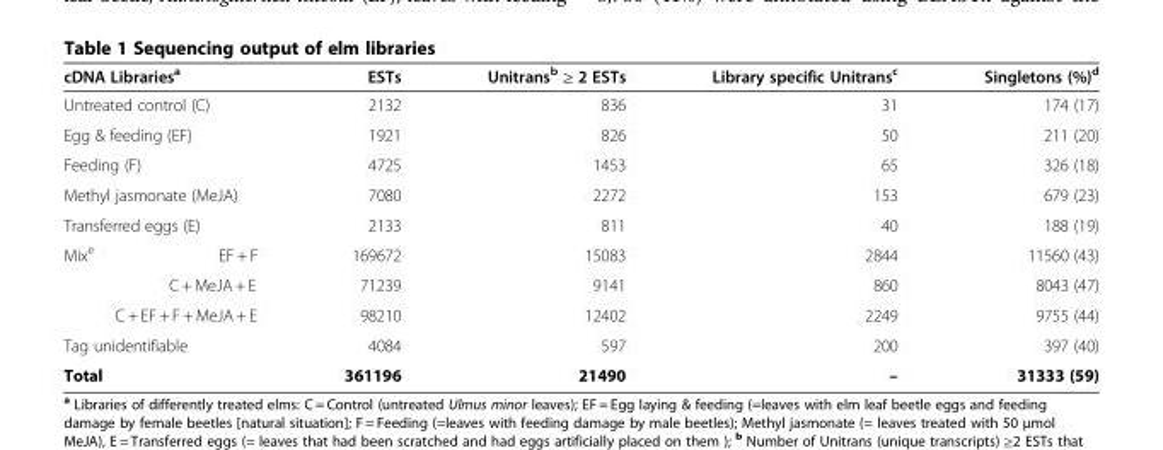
<table><thead><tr><td>cDNA Libraries<sup>a</sup></td><td>ESTs</td><td>Unitrans<sup>b</sup> ≥ 2 ESTs</td><td>Library specific Unitrans<sup>c</sup></td><td>Singletons (%)<sup>d</sup></td></tr></thead><tbody><tr><td>Untreated control (C)</td><td>2132</td><td>836</td><td>31</td><td>174 (17)</td></tr><tr><td>Egg &amp; feeding (EF)</td><td>1921</td><td>826</td><td>50</td><td>211 (20)</td></tr><tr><td>Feeding (F)</td><td>4725</td><td>1453</td><td>65</td><td>326 (18)</td></tr><tr><td>Methyl jasmonate (MeJA)</td><td>7080</td><td>2272</td><td>153</td><td>679 (23)</td></tr><tr><td>Transferred eggs (E)</td><td>2133</td><td>811</td><td>40</td><td>188 (19)</td></tr><tr><td>Mix<sup>e</sup> EF + F</td><td>169672</td><td>15083</td><td>2844</td><td>11560 (43)</td></tr><tr><td>C + MeJA + E</td><td>71239</td><td>9141</td><td>860</td><td>8043 (47)</td></tr><tr><td>C + EF + F + MeJA + E</td><td>98210</td><td>12402</td><td>2249</td><td>9755 (44)</td></tr><tr><td>Tag unidentifiable</td><td>4084</td><td>597</td><td>200</td><td>397 (40)</td></tr><tr><td>Total</td><td>361196</td><td>21490</td><td>–</td><td>31333 (59)</td></tr></tbody></table>